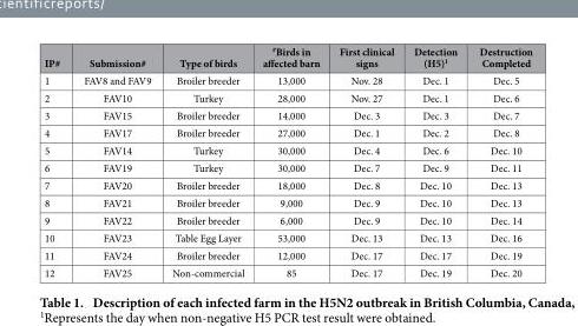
<table><thead><tr><td>IP#</td><td>Submission#</td><td>Type of birds</td><td><sup>#</sup>Birds in affected barn</td><td>First clinical signs</td><td>Detection (H5)<sup>1</sup></td><td>Destruction Completed</td></tr></thead><tbody><tr><td>1</td><td>FAV8 and FAV9</td><td>Broiler breeder</td><td>13,000</td><td>Nov. 28</td><td>Dec. 1</td><td>Dec. 5</td></tr><tr><td>2</td><td>FAV10</td><td>Turkey</td><td>28,000</td><td>Nov. 27</td><td>Dec. 1</td><td>Dec. 6</td></tr><tr><td>3</td><td>FAV15</td><td>Broiler breeder</td><td>14,000</td><td>Dec. 3</td><td>Dec. 3</td><td>Dec. 7</td></tr><tr><td>4</td><td>FAV17</td><td>Broiler breeder</td><td>27,000</td><td>Dec. 1</td><td>Dec. 2</td><td>Dec. 8</td></tr><tr><td>5</td><td>FAV14</td><td>Turkey</td><td>30,000</td><td>Dec. 4</td><td>Dec. 6</td><td>Dec. 10</td></tr><tr><td>6</td><td>FAV19</td><td>Turkey</td><td>30,000</td><td>Dec. 7</td><td>Dec. 9</td><td>Dec. 11</td></tr><tr><td>7</td><td>FAV20</td><td>Broiler breeder</td><td>18,000</td><td>Dec. 8</td><td>Dec. 10</td><td>Dec. 13</td></tr><tr><td>8</td><td>FAV21</td><td>Broiler breeder</td><td>9,000</td><td>Dec. 9</td><td>Dec. 10</td><td>Dec. 13</td></tr><tr><td>9</td><td>FAV22</td><td>Broiler breeder</td><td>6,000</td><td>Dec. 9</td><td>Dec. 10</td><td>Dec. 14</td></tr><tr><td>10</td><td>FAV23</td><td>Table Egg Layer</td><td>53,000</td><td>Dec. 13</td><td>Dec. 13</td><td>Dec. 16</td></tr><tr><td>11</td><td>FAV24</td><td>Broiler breeder</td><td>12,000</td><td>Dec. 17</td><td>Dec. 17</td><td>Dec. 19</td></tr><tr><td>12</td><td>FAV25</td><td>Non-commercial</td><td>85</td><td>Dec. 17</td><td>Dec. 19</td><td>Dec. 20</td></tr></tbody></table>